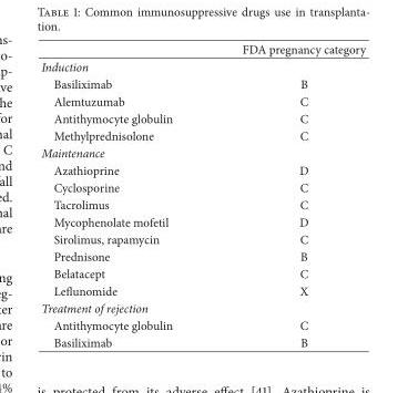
<table><thead><tr><td></td><td>FDA pregnancy category</td></tr></thead><tbody><tr><td colspan="2">Induction</td></tr><tr><td>Basiliximab</td><td>B</td></tr><tr><td>Alemtuzumab</td><td>C</td></tr><tr><td>Antithymocyte globulin</td><td>C</td></tr><tr><td>Methylprednisolone</td><td>C</td></tr><tr><td colspan="2">Maintenance</td></tr><tr><td>Azathioprine</td><td>D</td></tr><tr><td>Cyclosporine</td><td>C</td></tr><tr><td>Tacrolimus</td><td>C</td></tr><tr><td>Mycophenolate mofetil</td><td>D</td></tr><tr><td>Sirolimus, rapamycin</td><td>C</td></tr><tr><td>Prednisone</td><td>B</td></tr><tr><td>Belatacept</td><td>C</td></tr><tr><td>Leflunomide</td><td>X</td></tr><tr><td colspan="2">Treatment of rejection</td></tr><tr><td>Antithymocyte globulin</td><td>C</td></tr><tr><td>Basiliximab</td><td>B</td></tr></tbody></table>